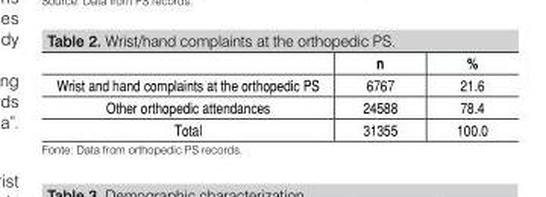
<table><thead><tr><td></td><td>n</td><td>%</td></tr></thead><tbody><tr><td>Wrist and hand complaints at the orthopedic PS</td><td>6767</td><td>21.6</td></tr><tr><td>Other orthopedic attendances</td><td>24588</td><td>78.4</td></tr><tr><td>Total</td><td>31355</td><td>100.0</td></tr></tbody></table>